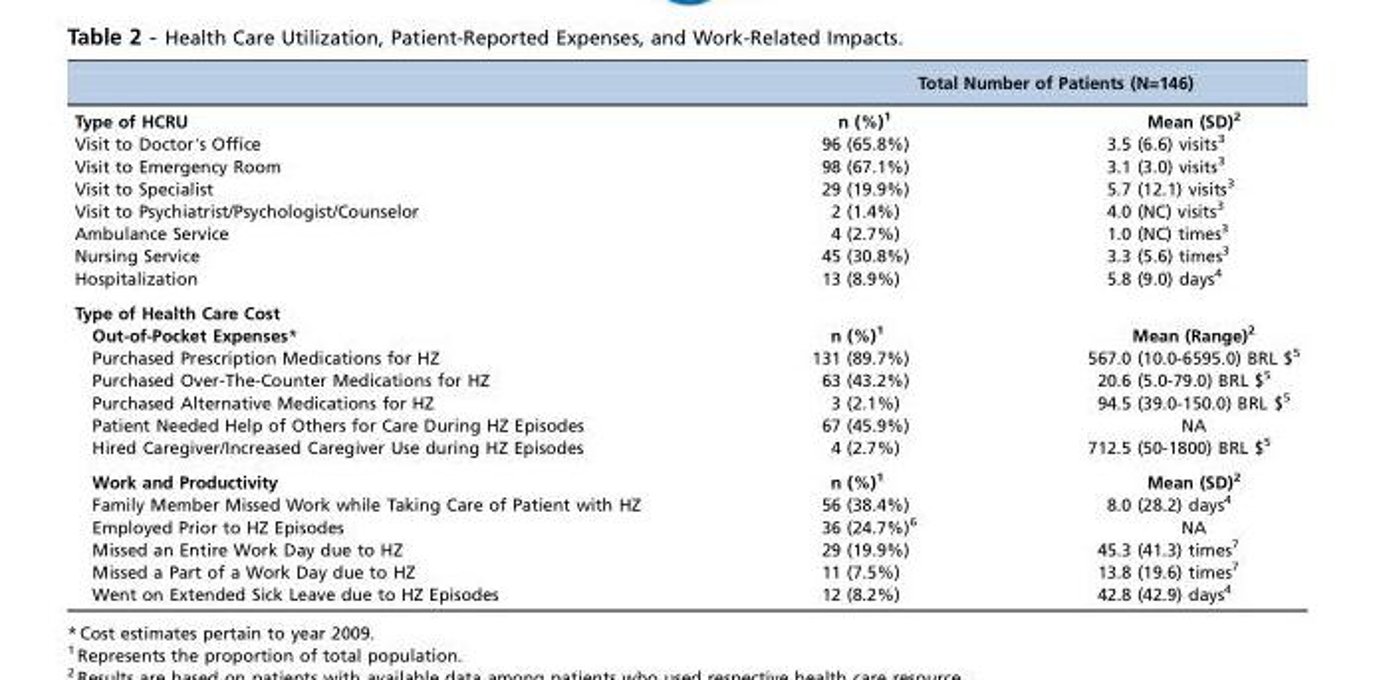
<table><thead><tr><td rowspan="2">Type of HCRU</td><td colspan="2">Total Number of Patients (N=146)</td></tr><tr><td>n (%)<sup>1</sup></td><td>Mean (SD)<sup>2</sup></td></tr></thead><tbody><tr><td>Visit to Doctor’s Office</td><td>96 (65.8%)</td><td>3.5 (6.6) visits<sup>3</sup></td></tr><tr><td>Visit to Emergency Room</td><td>98 (67.1%)</td><td>3.1 (3.0) visits<sup>3</sup></td></tr><tr><td>Visit to Specialist</td><td>29 (19.9%)</td><td>5.7 (12.1) visits<sup>3</sup></td></tr><tr><td>Visit to Psychiatrist/Psychologist/Counselor</td><td>2 (1.4%)</td><td>4.0 (NC) visits<sup>3</sup></td></tr><tr><td>Ambulance Service</td><td>4 (2.7%)</td><td>1.0 (NC) times<sup>3</sup></td></tr><tr><td>Nursing Service</td><td>45 (30.8%)</td><td>3.3 (5.6) times<sup>3</sup></td></tr><tr><td>Hospitalization</td><td>13 (8.9%)</td><td>5.8 (9.0) days<sup>4</sup></td></tr><tr><td colspan="3">Type of Health Care Cost</td></tr><tr><td>Out-of-Pocket Expenses*</td><td>n (%)<sup>1</sup></td><td>Mean (Range)<sup>2</sup></td></tr><tr><td>Purchased Prescription Medications for HZ</td><td>131 (89.7%)</td><td>567.0 (10.0-6595.0) BRL $<sup>5</sup></td></tr><tr><td>Purchased Over-The-Counter Medications for HZ</td><td>63 (43.2%)</td><td>20.6 (5.0-79.0) BRL $<sup>5</sup></td></tr><tr><td>Purchased Alternative Medications for HZ</td><td>3 (2.1%)</td><td>94.5 (39.0-150.0) BRL $<sup>5</sup></td></tr><tr><td>Patient Needed Help of Others for Care During HZ Episodes</td><td>67 (45.9%)</td><td>NA</td></tr><tr><td>Hired Caregiver/Increased Caregiver Use during HZ Episodes</td><td>4 (2.7%)</td><td>712.5 (50-1800) BRL $<sup>5</sup></td></tr><tr><td>Work and Productivity</td><td>n (%)<sup>1</sup></td><td>Mean (SD)<sup>2</sup></td></tr><tr><td>Family Member Missed Work while Taking Care of Patient with HZ</td><td>56 (38.4%)</td><td>8.0 (28.2) days<sup>4</sup></td></tr><tr><td>Employed Prior to HZ Episodes</td><td>36 (24.7%)<sup>6</sup></td><td>NA</td></tr><tr><td>Missed an Entire Work Day due to HZ</td><td>29 (19.9%)</td><td>45.3 (41.3) times<sup>7</sup></td></tr><tr><td>Missed a Part of a Work Day due to HZ</td><td>11 (7.5%)</td><td>13.8 (19.6) times<sup>7</sup></td></tr><tr><td>Went on Extended Sick Leave due to HZ Episodes</td><td>12 (8.2%)</td><td>42.8 (42.9) days<sup>4</sup></td></tr></tbody></table>